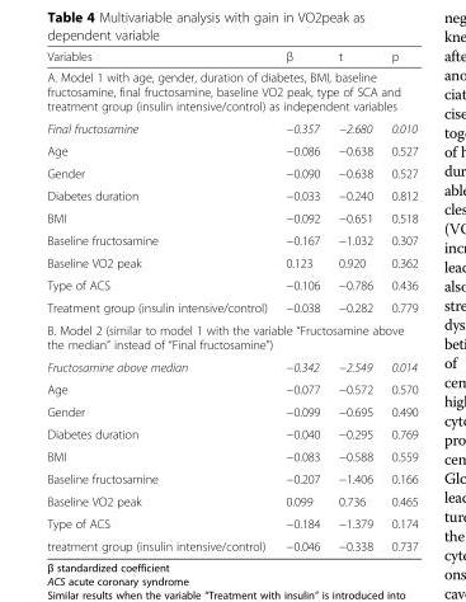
<table><thead><tr><td>Variables</td><td>β</td><td>t</td><td>p</td></tr></thead><tbody><tr><td colspan="4">A. Model 1 with age, gender, duration of diabetes, BMI, baseline fructosamine, final fructosamine, baseline VO2 peak, type of SCA and treatment group (insulin intensive/control) as independent variables</td></tr><tr><td>Final fructosamine</td><td>−0.357</td><td>−2.680</td><td>0.010</td></tr><tr><td>Age</td><td>−0.086</td><td>−0.638</td><td>0.527</td></tr><tr><td>Gender</td><td>−0.090</td><td>−0.638</td><td>0.527</td></tr><tr><td>Diabetes duration</td><td>−0.033</td><td>−0.240</td><td>0.812</td></tr><tr><td>BMI</td><td>−0.092</td><td>−0.651</td><td>0.518</td></tr><tr><td>Baseline fructosamine</td><td>−0.167</td><td>−1.032</td><td>0.307</td></tr><tr><td>Baseline VO2 peak</td><td>0.123</td><td>0.920</td><td>0.362</td></tr><tr><td>Type of ACS</td><td>−0.106</td><td>−0.786</td><td>0.436</td></tr><tr><td>Treatment group (insulin intensive/control)</td><td>−0.038</td><td>−0.282</td><td>0.779</td></tr><tr><td colspan="4">B. Model 2 (similar to model 1 with the variable “Fructosamine above the median” instead of “Final fructosamine”)</td></tr><tr><td>Fructosamine above median</td><td>−0.342</td><td>−2.549</td><td>0.014</td></tr><tr><td>Age</td><td>−0.077</td><td>−0.572</td><td>0.570</td></tr><tr><td>Gender</td><td>−0.099</td><td>−0.695</td><td>0.490</td></tr><tr><td>Diabetes duration</td><td>−0.040</td><td>−0.295</td><td>0.769</td></tr><tr><td>BMI</td><td>−0.083</td><td>−0.588</td><td>0.559</td></tr><tr><td>Baseline fructosamine</td><td>−0.207</td><td>−1.406</td><td>0.166</td></tr><tr><td>Baseline VO2 peak</td><td>0.099</td><td>0.736</td><td>0.465</td></tr><tr><td>Type of ACS</td><td>−0.184</td><td>−1.379</td><td>0.174</td></tr><tr><td>treatment group (insulin intensive/control)</td><td>−0.046</td><td>−0.338</td><td>0.737</td></tr></tbody></table>